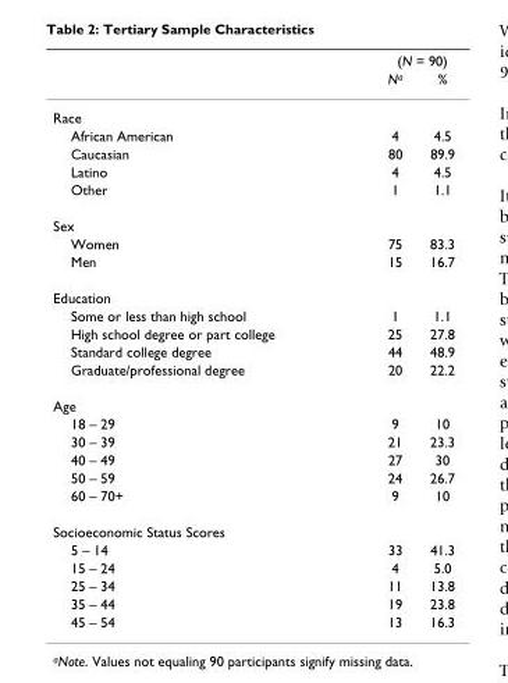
<table><thead><tr><td rowspan="2"></td><td colspan="2">(N = 90)</td></tr><tr><td>N<sup>a</sup></td><td>%</td></tr></thead><tbody><tr><td colspan="3">Race</td></tr><tr><td>African American</td><td>4</td><td>4.5</td></tr><tr><td>Caucasian</td><td>80</td><td>89.9</td></tr><tr><td>Latino</td><td>4</td><td>4.5</td></tr><tr><td>Other</td><td>1</td><td>1.1</td></tr><tr><td colspan="3">Sex</td></tr><tr><td>Women</td><td>75</td><td>83.3</td></tr><tr><td>Men</td><td>15</td><td>16.7</td></tr><tr><td colspan="3">Education</td></tr><tr><td>Some or less than high school</td><td>1</td><td>1.1</td></tr><tr><td>High school degree or part college</td><td>25</td><td>27.8</td></tr><tr><td>Standard college degree</td><td>44</td><td>48.9</td></tr><tr><td>Graduate/professional degree</td><td>20</td><td>22.2</td></tr><tr><td colspan="3">Age</td></tr><tr><td>18 – 29</td><td>9</td><td>10</td></tr><tr><td>30 – 39</td><td>21</td><td>23.3</td></tr><tr><td>40 – 49</td><td>27</td><td>30</td></tr><tr><td>50 – 59</td><td>24</td><td>26.7</td></tr><tr><td>60 – 70+</td><td>9</td><td>10</td></tr><tr><td colspan="3">Socioeconomic Status Scores</td></tr><tr><td>5 – 14</td><td>33</td><td>41.3</td></tr><tr><td>15 – 24</td><td>4</td><td>5.0</td></tr><tr><td>25 – 34</td><td>11</td><td>13.8</td></tr><tr><td>35 – 44</td><td>19</td><td>23.8</td></tr><tr><td>45 – 54</td><td>13</td><td>16.3</td></tr></tbody></table>